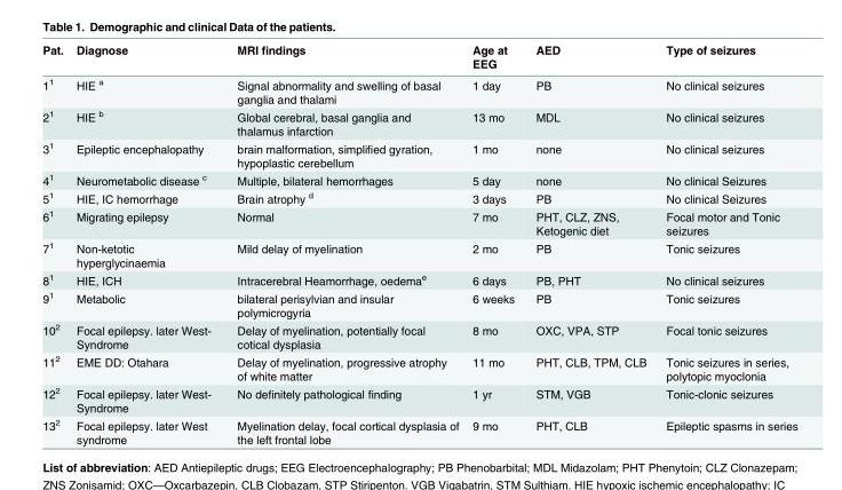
<table><thead><tr><td>Pat.</td><td>Diagnose</td><td>MRI findings</td><td>Age at EEG</td><td>AED</td><td>Type of seizures</td></tr></thead><tbody><tr><td>1<sup>1</sup></td><td>HIE <sup>a</sup></td><td>Signal abnormality and swelling of basal ganglia and thalami</td><td>1 day</td><td>PB</td><td>No clinical seizures</td></tr><tr><td>2<sup>1</sup></td><td>HIE <sup>b</sup></td><td>Global cerebral, basal ganglia and thalamus infarction</td><td>13 mo</td><td>MDL</td><td>No clinical seizures</td></tr><tr><td>3<sup>1</sup></td><td>Epileptic encephalopathy</td><td>brain malformation, simplified gyration, hypoplastic cerebellum</td><td>1 mo</td><td>none</td><td>No clinical seizures</td></tr><tr><td>4<sup>1</sup></td><td>Neurometabolic disease <sup>c</sup></td><td>Multiple, bilateral hemorrhages</td><td>5 day</td><td>none</td><td>No clinical Seizures</td></tr><tr><td>5<sup>1</sup></td><td>HIE, IC hemorrhage</td><td>Brain atrophy <sup>d</sup></td><td>3 days</td><td>PB</td><td>No clinical Seizures</td></tr><tr><td>6<sup>1</sup></td><td>Migrating epilepsy</td><td>Normal</td><td>7 mo</td><td>PHT, CLZ, ZNS, Ketogenic diet</td><td>Focal motor and Tonic seizures</td></tr><tr><td>7<sup>1</sup></td><td>Non-ketotic hyperglycinaemia</td><td>Mild delay of myelination</td><td>2 mo</td><td>PB</td><td>Tonic seizures</td></tr><tr><td>8<sup>1</sup></td><td>HIE, ICH</td><td>Intracerebral Heamorrhage, oedema<sup>e</sup></td><td>6 days</td><td>PB, PHT</td><td>No clinical seizures</td></tr><tr><td>9<sup>1</sup></td><td>Metabolic</td><td>bilateral perisylvian and insular polymicrogyria</td><td>6 weeks</td><td>PB</td><td>Tonic seizures</td></tr><tr><td>10<sup>2</sup></td><td>Focal epilepsy. later West- Syndrome</td><td>Delay of myelination, potentially focal cotical dysplasia</td><td>8 mo</td><td>OXC, VPA, STP</td><td>Focal tonic seizures</td></tr><tr><td>11<sup>2</sup></td><td>EME DD: Otahara</td><td>Delay of myelination, progressive atrophy of white matter</td><td>11 mo</td><td>PHT, CLB, TPM, CLB</td><td>Tonic seizures in series, polytopic myoclonia</td></tr><tr><td>12<sup>2</sup></td><td>Focal epilepsy. later West- Syndrome</td><td>No definitely pathological finding</td><td>1 yr</td><td>STM, VGB</td><td>Tonic-clonic seizures</td></tr><tr><td>13<sup>2</sup></td><td>Focal epilepsy. later West syndrome</td><td>Myelination delay, focal cortical dysplasia of the left frontal lobe</td><td>9 mo</td><td>PHT, CLB</td><td>Epileptic spasms in series</td></tr></tbody></table>